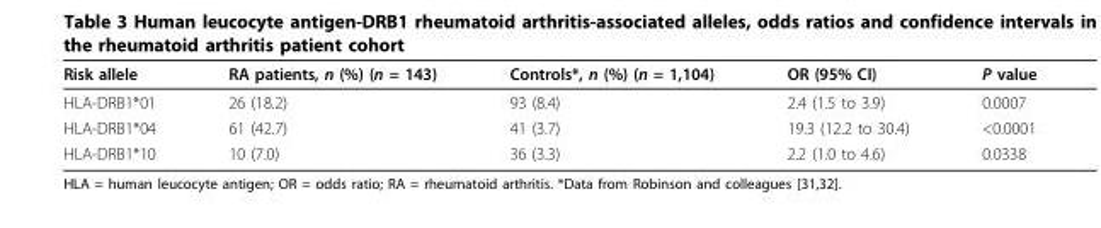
<table><thead><tr><td>Risk allele</td><td>RA patients, n (%) (n = 143)</td><td>Controls*, n (%) (n = 1,104)</td><td>OR (95% CI)</td><td>P value</td></tr></thead><tbody><tr><td>HLA-DRB1*01</td><td>26 (18.2)</td><td>93 (8.4)</td><td>2.4 (1.5 to 3.9)</td><td>0.0007</td></tr><tr><td>HLA-DRB1*04</td><td>61 (42.7)</td><td>41 (3.7)</td><td>19.3 (12.2 to 30.4)</td><td>&lt;0.0001</td></tr><tr><td>HLA-DRB1*10</td><td>10 (7.0)</td><td>36 (3.3)</td><td>2.2 (1.0 to 4.6)</td><td>0.0338</td></tr></tbody></table>